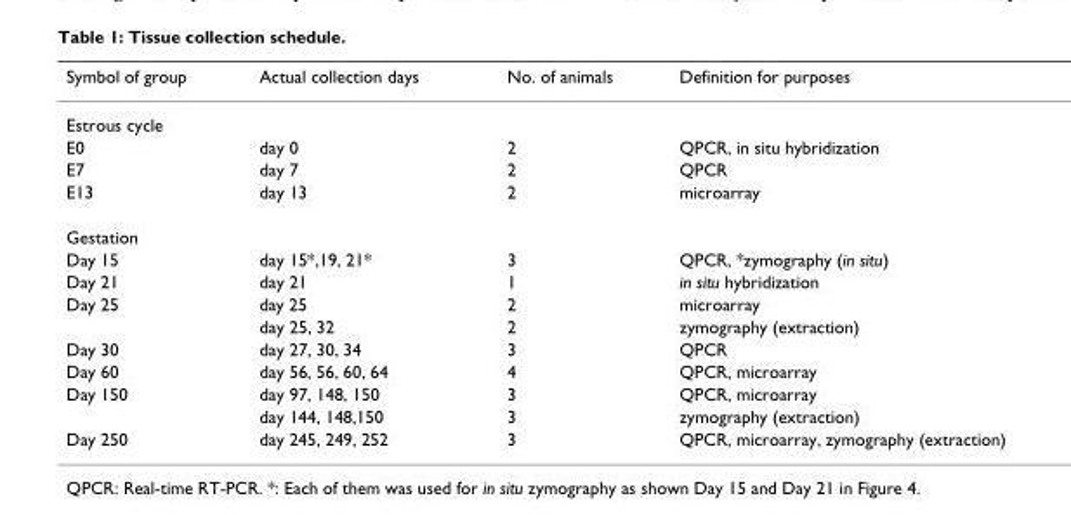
<table><thead><tr><td>Symbol of group</td><td>Actual collection days</td><td>No. of animals</td><td>Definition for purposes</td></tr></thead><tbody><tr><td colspan="4">Estrous cycle</td></tr><tr><td>E0</td><td>day 0</td><td>2</td><td>QPCR, in situ hybridization</td></tr><tr><td>E7</td><td>day 7</td><td>2</td><td>QPCR</td></tr><tr><td>E13</td><td>day 13</td><td>2</td><td>microarray</td></tr><tr><td colspan="4">Gestation</td></tr><tr><td>Day 15</td><td>day 15*,19, 21*</td><td>3</td><td>QPCR, *zymography (in situ)</td></tr><tr><td>Day 21</td><td>day 21</td><td>1</td><td>in situ hybridization</td></tr><tr><td rowspan="2">Day 25</td><td>day 25</td><td>2</td><td>microarray</td></tr><tr><td>day 25, 32</td><td>2</td><td>zymography (extraction)</td></tr><tr><td>Day 30</td><td>day 27, 30, 34</td><td>3</td><td>QPCR</td></tr><tr><td>Day 60</td><td>day 56, 56, 60, 64</td><td>4</td><td>QPCR, microarray</td></tr><tr><td rowspan="2">Day 150</td><td>day 97, 148, 150</td><td>3</td><td>QPCR, microarray</td></tr><tr><td>day 144, 148,150</td><td>3</td><td>zymography (extraction)</td></tr><tr><td>Day 250</td><td>day 245, 249, 252</td><td>3</td><td>QPCR, microarray, zymography (extraction)</td></tr></tbody></table>